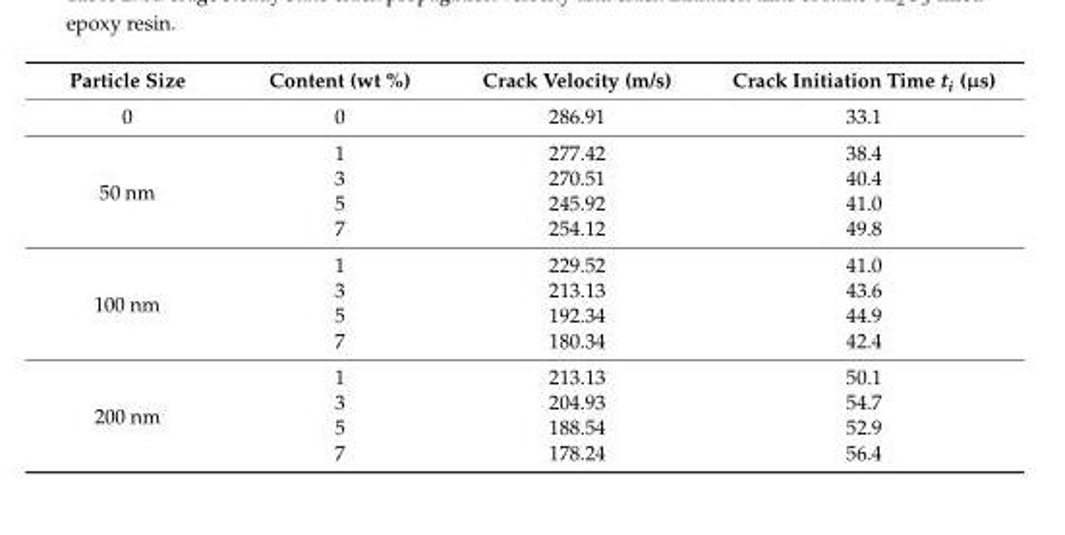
<table><thead><tr><td>Particle Size</td><td>Content (wt %)</td><td>Crack Velocity (m/s)</td><td>Crack Initiation Time t<sub>i</sub> (µs)</td></tr></thead><tbody><tr><td>0</td><td>0</td><td>286.91</td><td>33.1</td></tr><tr><td rowspan="4">50 nm</td><td>1</td><td>277.42</td><td>38.4</td></tr><tr><td>3</td><td>270.51</td><td>40.4</td></tr><tr><td>5</td><td>245.92</td><td>41.0</td></tr><tr><td>7</td><td>254.12</td><td>49.8</td></tr><tr><td rowspan="4">100 nm</td><td>1</td><td>229.52</td><td>41.0</td></tr><tr><td>3</td><td>213.13</td><td>43.6</td></tr><tr><td>5</td><td>192.34</td><td>44.9</td></tr><tr><td>7</td><td>180.34</td><td>42.4</td></tr><tr><td rowspan="4">200 nm</td><td>1</td><td>213.13</td><td>50.1</td></tr><tr><td>3</td><td>204.93</td><td>54.7</td></tr><tr><td>5</td><td>188.54</td><td>52.9</td></tr><tr><td>7</td><td>178.24</td><td>56.4</td></tr></tbody></table>